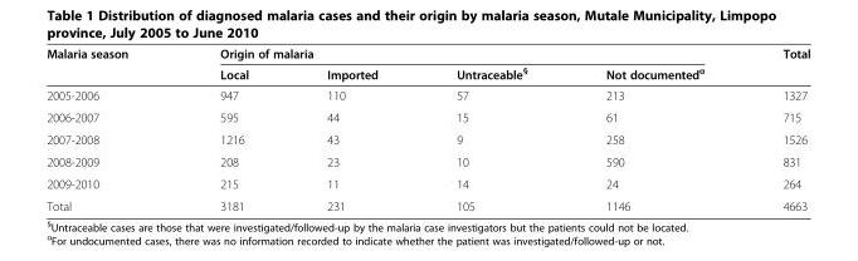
<table><thead><tr><td rowspan="2">Malaria season</td><td colspan="4">Origin of malaria</td><td rowspan="2">Total</td></tr><tr><td>Local</td><td>Imported</td><td>Untraceable<sup>§</sup></td><td>Not documented<sup>α</sup></td></tr></thead><tbody><tr><td>2005-2006</td><td>947</td><td>110</td><td>57</td><td>213</td><td>1327</td></tr><tr><td>2006-2007</td><td>595</td><td>44</td><td>15</td><td>61</td><td>715</td></tr><tr><td>2007-2008</td><td>1216</td><td>43</td><td>9</td><td>258</td><td>1526</td></tr><tr><td>2008-2009</td><td>208</td><td>23</td><td>10</td><td>590</td><td>831</td></tr><tr><td>2009-2010</td><td>215</td><td>11</td><td>14</td><td>24</td><td>264</td></tr><tr><td>Total</td><td>3181</td><td>231</td><td>105</td><td>1146</td><td>4663</td></tr></tbody></table>